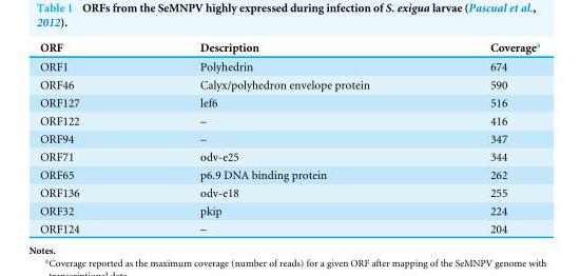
<table><thead><tr><td>ORF</td><td>Description</td><td>Coverage<sup>a</sup></td></tr></thead><tbody><tr><td>ORF1</td><td>Polyhedrin</td><td>674</td></tr><tr><td>ORF46</td><td>Calyx/polyhedron envelope protein</td><td>590</td></tr><tr><td>ORF127</td><td>lef6</td><td>516</td></tr><tr><td>ORF122</td><td>–</td><td>416</td></tr><tr><td>ORF94</td><td>–</td><td>347</td></tr><tr><td>ORF71</td><td>odv-e25</td><td>344</td></tr><tr><td>ORF65</td><td>p6.9 DNA binding protein</td><td>262</td></tr><tr><td>ORF136</td><td>odv-e18</td><td>255</td></tr><tr><td>ORF32</td><td>pkip</td><td>224</td></tr><tr><td>ORF124</td><td>–</td><td>204</td></tr></tbody></table>